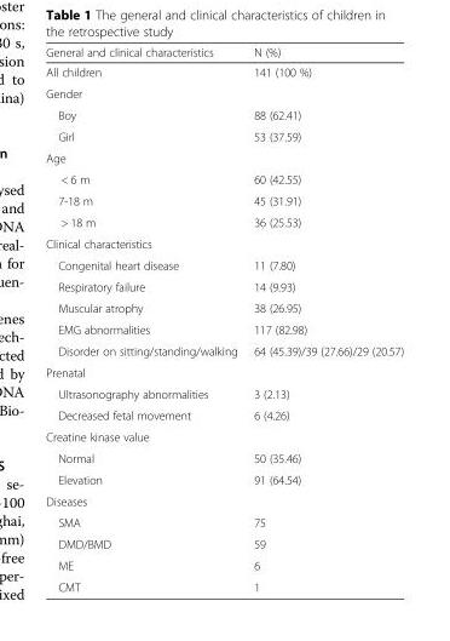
<table><thead><tr><td>General and clinical characteristics</td><td>N (%)</td></tr></thead><tbody><tr><td>All children</td><td>141 (100 %)</td></tr><tr><td colspan="2">Gender</td></tr><tr><td>Boy</td><td>88 (62.41)</td></tr><tr><td>Girl</td><td>53 (37.59)</td></tr><tr><td colspan="2">Age</td></tr><tr><td>&lt; 6 m</td><td>60 (42.55)</td></tr><tr><td>7-18 m</td><td>45 (31.91)</td></tr><tr><td>&gt; 18 m</td><td>36 (25.53)</td></tr><tr><td colspan="2">Clinical characteristics</td></tr><tr><td>Congenital heart disease</td><td>11 (7.80)</td></tr><tr><td>Respiratory failure</td><td>14 (9.93)</td></tr><tr><td>Muscular atrophy</td><td>38 (26.95)</td></tr><tr><td>EMG abnormalities</td><td>117 (82.98)</td></tr><tr><td>Disorder on sitting/standing/walking</td><td>64 (45.39)/39 (27.66)/29 (20.57)</td></tr><tr><td colspan="2">Prenatal</td></tr><tr><td>Ultrasonography abnormalities</td><td>3 (2.13)</td></tr><tr><td>Decreased fetal movement</td><td>6 (4.26)</td></tr><tr><td colspan="2">Creatine kinase value</td></tr><tr><td>Normal</td><td>50 (35.46)</td></tr><tr><td>Elevation</td><td>91 (64.54)</td></tr><tr><td colspan="2">Diseases</td></tr><tr><td>SMA</td><td>75</td></tr><tr><td>DMD/BMD</td><td>59</td></tr><tr><td>ME</td><td>6</td></tr><tr><td>CMT</td><td>1</td></tr></tbody></table>